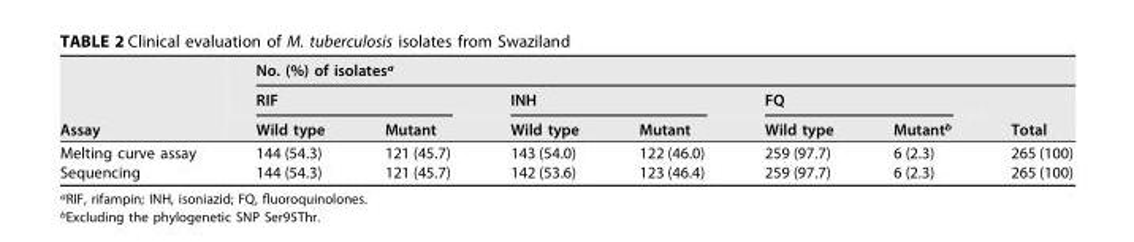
<table><thead><tr><td rowspan="3">Assay</td><td colspan="7">No. (%) of isolates<sup>a</sup></td></tr><tr><td colspan="2">RIF</td><td colspan="2">INH</td><td colspan="2">FQ</td><td rowspan="2">Total</td></tr><tr><td>Wild type</td><td>Mutant</td><td>Wild type</td><td>Mutant</td><td>Wild type</td><td>Mutant<sup>b</sup></td></tr></thead><tbody><tr><td>Melting curve assay</td><td>144 (54.3)</td><td>121 (45.7)</td><td>143 (54.0)</td><td>122 (46.0)</td><td>259 (97.7)</td><td>6 (2.3)</td><td>265 (100)</td></tr><tr><td>Sequencing</td><td>144 (54.3)</td><td>121 (45.7)</td><td>142 (53.6)</td><td>123 (46.4)</td><td>259 (97.7)</td><td>6 (2.3)</td><td>265 (100)</td></tr></tbody></table>